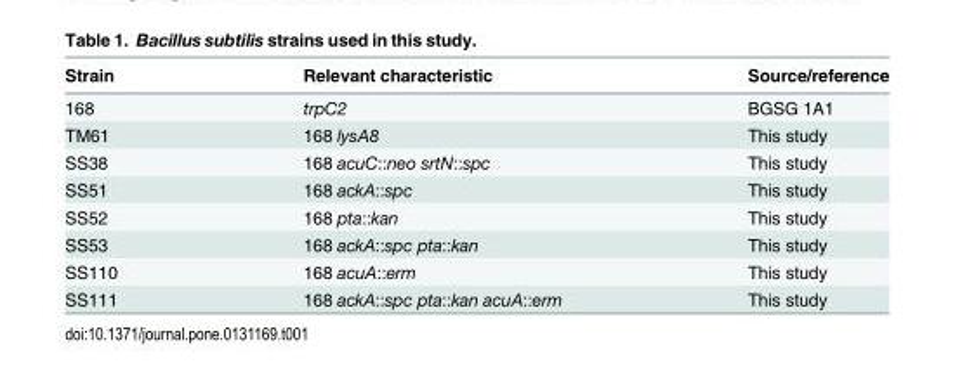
<table><thead><tr><td>Strain</td><td>Relevant characteristic</td><td>Source/reference</td></tr></thead><tbody><tr><td>168</td><td>trpC2</td><td>BGSG 1A1</td></tr><tr><td>TM61</td><td>168 lysA8</td><td>This study</td></tr><tr><td>SS38</td><td>168 acuC::neo srtN::spc</td><td>This study</td></tr><tr><td>SS51</td><td>168 ackA::spc</td><td>This study</td></tr><tr><td>SS52</td><td>168 pta::kan</td><td>This study</td></tr><tr><td>SS53</td><td>168 ackA::spc pta::kan</td><td>This study</td></tr><tr><td>SS110</td><td>168 acuA::erm</td><td>This study</td></tr><tr><td>SS111</td><td>168 ackA::spc pta::kan acuA::erm</td><td>This study</td></tr></tbody></table>